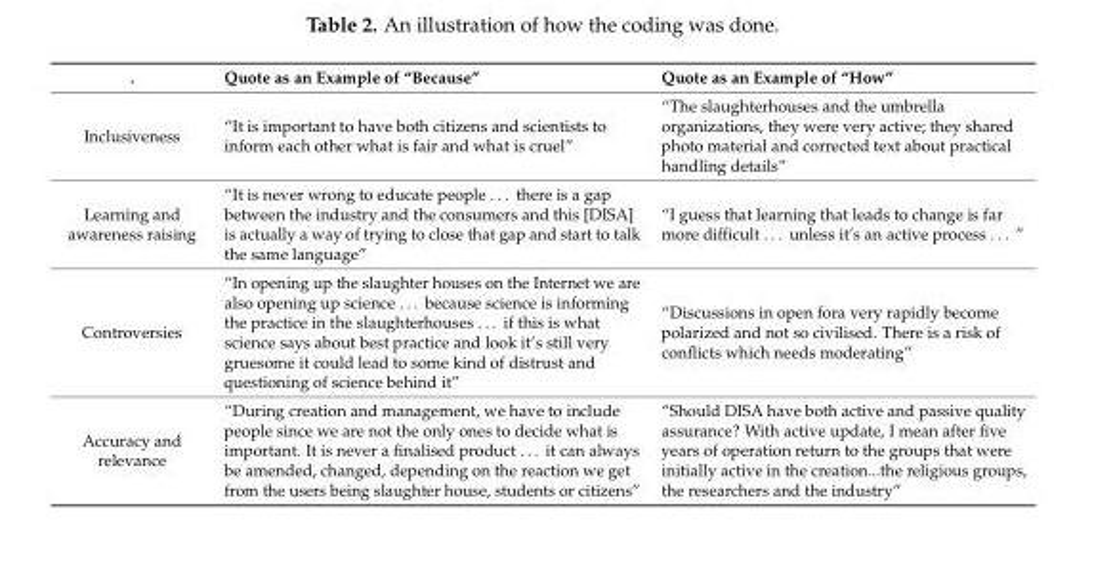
<table><thead><tr><td>.</td><td>Quote as an Example of “Because”</td><td>Quote as an Example of “How”</td></tr></thead><tbody><tr><td>Inclusiveness</td><td>“It is important to have both citizens and scientists to inform each other what is fair and what is cruel”</td><td>“The slaughterhouses and the umbrella organizations, they were very active; they shared photo material and corrected text about practical handling details”</td></tr><tr><td>Learning and awareness raising</td><td>“It is never wrong to educate people . . . there is a gap between the industry and the consumers and this [DISA] is actually a way of trying to close that gap and start to talk the same language”</td><td>“I guess that learning that leads to change is far more difficult . . . unless it’s an active process . . . ”</td></tr><tr><td>Controversies</td><td>“In opening up the slaughter houses on the Internet we are also opening up science . . . because science is informing the practice in the slaughterhouses . . . if this is what science says about best practice and look it’s still very gruesome it could lead to some kind of distrust and questioning of science behind it”</td><td>“Discussions in open fora very rapidly become polarized and not so civilised. There is a risk of conflicts which needs moderating”</td></tr><tr><td>Accuracy and relevance</td><td>“During creation and management, we have to include people since we are not the only ones to decide what is important. It is never a finalised product . . . it can always be amended, changed, depending on the reaction we get from the users being slaughter house, students or citizens”</td><td>“Should DISA have both active and passive quality assurance? With active update, I mean after five years of operation return to the groups that were initially active in the creation...the religious groups, the researchers and the industry”</td></tr></tbody></table>